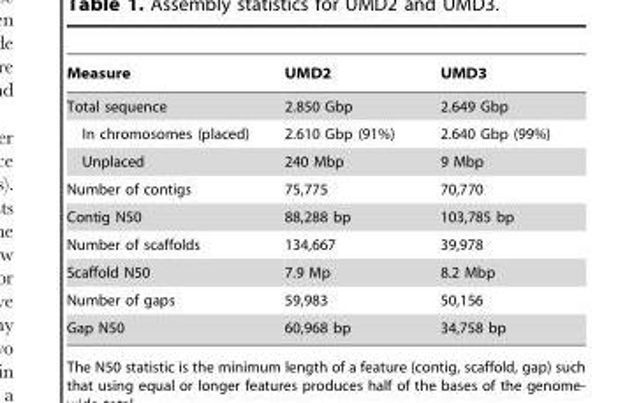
<table><thead><tr><td>Measure</td><td>UMD2</td><td>UMD3</td></tr></thead><tbody><tr><td>Total sequence</td><td>2.850 Gbp</td><td>2.649 Gbp</td></tr><tr><td>In chromosomes (placed)</td><td>2.610 Gbp (91%)</td><td>2.640 Gbp (99%)</td></tr><tr><td>Unplaced</td><td>240 Mbp</td><td>9 Mbp</td></tr><tr><td>Number of contigs</td><td>75,775</td><td>70,770</td></tr><tr><td>Contig N50</td><td>88,288 bp</td><td>103,785 bp</td></tr><tr><td>Number of scaffolds</td><td>134,667</td><td>39,978</td></tr><tr><td>Scaffold N50</td><td>7.9 Mp</td><td>8.2 Mbp</td></tr><tr><td>Number of gaps</td><td>59,983</td><td>50,156</td></tr><tr><td>Gap N50</td><td>60,968 bp</td><td>34,758 bp</td></tr></tbody></table>